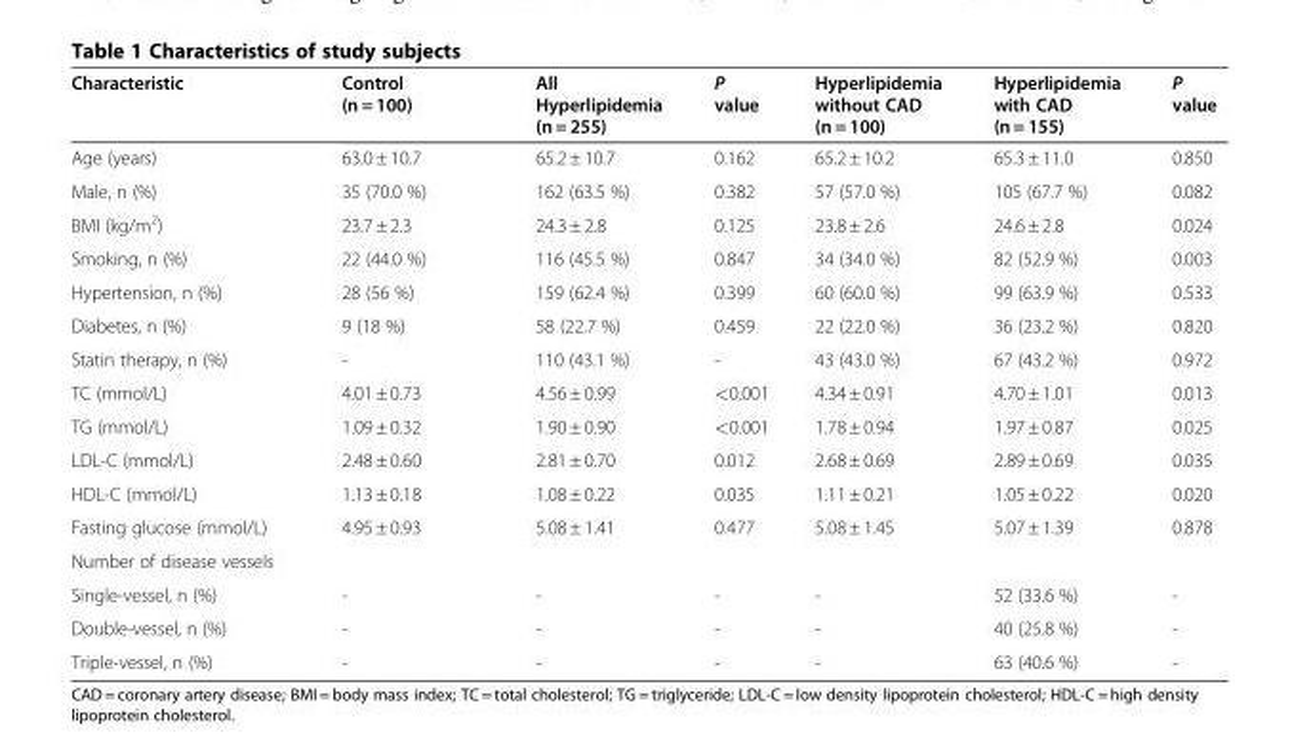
<table><thead><tr><td>Characteristic</td><td>Control (n = 100)</td><td>All Hyperlipidemia (n = 255)</td><td>P value</td><td>Hyperlipidemia without CAD (n = 100)</td><td>Hyperlipidemia with CAD (n = 155)</td><td>P value</td></tr></thead><tbody><tr><td>Age (years)</td><td>63.0 ± 10.7</td><td>65.2 ± 10.7</td><td>0.162</td><td>65.2 ± 10.2</td><td>65.3 ± 11.0</td><td>0.850</td></tr><tr><td>Male, n (%)</td><td>35 (70.0 %)</td><td>162 (63.5 %)</td><td>0.382</td><td>57 (57.0 %)</td><td>105 (67.7 %)</td><td>0.082</td></tr><tr><td>BMI (kg/m<sup>2</sup>)</td><td>23.7 ± 2.3</td><td>24.3 ± 2.8</td><td>0.125</td><td>23.8 ± 2.6</td><td>24.6 ± 2.8</td><td>0.024</td></tr><tr><td>Smoking, n (%)</td><td>22 (44.0 %)</td><td>116 (45.5 %)</td><td>0.847</td><td>34 (34.0 %)</td><td>82 (52.9 %)</td><td>0.003</td></tr><tr><td>Hypertension, n (%)</td><td>28 (56 %)</td><td>159 (62.4 %)</td><td>0.399</td><td>60 (60.0 %)</td><td>99 (63.9 %)</td><td>0.533</td></tr><tr><td>Diabetes, n (%)</td><td>9 (18 %)</td><td>58 (22.7 %)</td><td>0.459</td><td>22 (22.0 %)</td><td>36 (23.2 %)</td><td>0.820</td></tr><tr><td>Statin therapy, n (%)</td><td>-</td><td>110 (43.1 %)</td><td>-</td><td>43 (43.0 %)</td><td>67 (43.2 %)</td><td>0.972</td></tr><tr><td>TC (mmol/L)</td><td>4.01 ± 0.73</td><td>4.56 ± 0.99</td><td>&lt;0.001</td><td>4.34 ± 0.91</td><td>4.70 ± 1.01</td><td>0.013</td></tr><tr><td>TG (mmol/L)</td><td>1.09 ± 0.32</td><td>1.90 ± 0.90</td><td>&lt;0.001</td><td>1.78 ± 0.94</td><td>1.97 ± 0.87</td><td>0.025</td></tr><tr><td>LDL-C (mmol/L)</td><td>2.48 ± 0.60</td><td>2.81 ± 0.70</td><td>0.012</td><td>2.68 ± 0.69</td><td>2.89 ± 0.69</td><td>0.035</td></tr><tr><td>HDL-C (mmol/L)</td><td>1.13 ± 0.18</td><td>1.08 ± 0.22</td><td>0.035</td><td>1.11 ± 0.21</td><td>1.05 ± 0.22</td><td>0.020</td></tr><tr><td>Fasting glucose (mmol/L)</td><td>4.95 ± 0.93</td><td>5.08 ± 1.41</td><td>0.477</td><td>5.08 ± 1.45</td><td>5.07 ± 1.39</td><td>0.878</td></tr><tr><td colspan="7">Number of disease vessels</td></tr><tr><td>Single-vessel, n (%)</td><td>-</td><td>-</td><td>-</td><td>-</td><td>52 (33.6 %)</td><td>-</td></tr><tr><td>Double-vessel, n (%)</td><td>-</td><td>-</td><td>-</td><td>-</td><td>40 (25.8 %)</td><td>-</td></tr><tr><td>Triple-vessel, n (%)</td><td>-</td><td>-</td><td>-</td><td>-</td><td>63 (40.6 %)</td><td>-</td></tr></tbody></table>